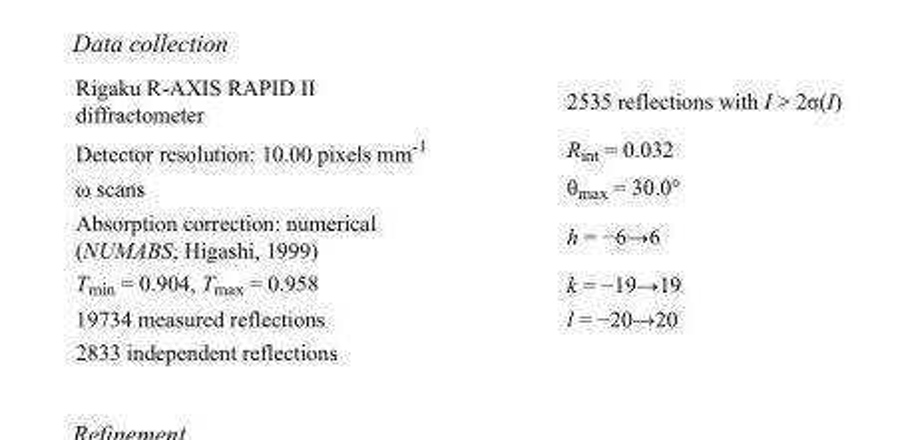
<table><tbody><tr><td>Rigaku R-AXIS RAPID II diffractometer</td><td>2535 reflections with I &gt; 2σ(I)</td></tr><tr><td>Detector resolution: 10.00 pixels mm<sup>-1</sup></td><td>R<sub>int</sub> = 0.032</td></tr><tr><td>ω scans</td><td>θ<sub>max</sub> = 30.0°</td></tr><tr><td>Absorption correction: numerical (NUMABS; Higashi, 1999)</td><td>h = −6→6</td></tr><tr><td>T<sub>min</sub> = 0.904, T<sub>max</sub> = 0.958</td><td>k = −19→19</td></tr><tr><td>19734 measured reflections</td><td>l = −20→20</td></tr><tr><td>2833 independent reflections</td><td></td></tr></tbody></table>